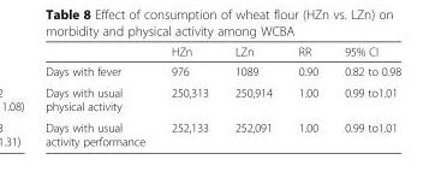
<table><thead><tr><td></td><td>HZn</td><td>LZn</td><td>RR</td><td>95% CI</td></tr></thead><tbody><tr><td>Days with fever</td><td>976</td><td>1089</td><td>0.90</td><td>0.82 to 0.98</td></tr><tr><td>Days with usual physical activity</td><td>250,313</td><td>250,914</td><td>1.00</td><td>0.99 to1.01</td></tr><tr><td>Days with usual activity performance</td><td>252,133</td><td>252,091</td><td>1.00</td><td>0.99 to1.01</td></tr></tbody></table>